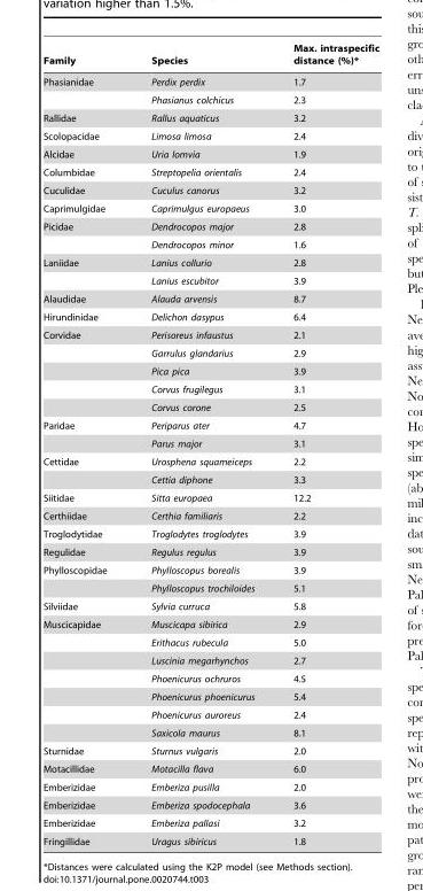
<table><thead><tr><td>Family</td><td>Species</td><td>Max. intraspecific distance (%)*</td></tr></thead><tbody><tr><td rowspan="2">Phasianidae</td><td>Perdix perdix</td><td>1.7</td></tr><tr><td>Phasianus colchicus</td><td>2.3</td></tr><tr><td>Rallidae</td><td>Rallus aquaticus</td><td>3.2</td></tr><tr><td>Scolopacidae</td><td>Limosa limosa</td><td>2.4</td></tr><tr><td>Alcidae</td><td>Uria lomvia</td><td>1.9</td></tr><tr><td>Columbidae</td><td>Streptopelia orientalis</td><td>2.4</td></tr><tr><td>Cuculidae</td><td>Cuculus canorus</td><td>3.2</td></tr><tr><td>Caprimulgidae</td><td>Caprimulgus europaeus</td><td>3.0</td></tr><tr><td rowspan="2">Picidae</td><td>Dendrocopos major</td><td>2.8</td></tr><tr><td>Dendrocopos minor</td><td>1.6</td></tr><tr><td rowspan="2">Laniidae</td><td>Lanius collurio</td><td>2.8</td></tr><tr><td>Lanius escubitor</td><td>3.9</td></tr><tr><td>Alaudidae</td><td>Alauda arvensis</td><td>8.7</td></tr><tr><td>Hirundinidae</td><td>Delichon dasypus</td><td>6.4</td></tr><tr><td rowspan="5">Corvidae</td><td>Perisoreus infaustus</td><td>2.1</td></tr><tr><td>Garrulus glandarius</td><td>2.9</td></tr><tr><td>Pica pica</td><td>3.9</td></tr><tr><td>Corvus frugilegus</td><td>3.1</td></tr><tr><td>Corvus corone</td><td>2.5</td></tr><tr><td rowspan="2">Paridae</td><td>Periparus ater</td><td>4.7</td></tr><tr><td>Parus major</td><td>3.1</td></tr><tr><td rowspan="2">Cettidae</td><td>Urosphena squameiceps</td><td>2.2</td></tr><tr><td>Cettia diphone</td><td>3.3</td></tr><tr><td>Siitidae</td><td>Sitta europaea</td><td>12.2</td></tr><tr><td>Certhiidae</td><td>Certhia familiaris</td><td>2.2</td></tr><tr><td>Troglodytidae</td><td>Troglodytes troglodytes</td><td>3.9</td></tr><tr><td>Regulidae</td><td>Regulus regulus</td><td>3.9</td></tr><tr><td rowspan="2">Phylloscopidae</td><td>Phylloscopus borealis</td><td>3.9</td></tr><tr><td>Phylloscopus trochiloides</td><td>5.1</td></tr><tr><td>Silviidae</td><td>Sylvia curruca</td><td>5.8</td></tr><tr><td rowspan="7">Muscicapidae</td><td>Muscicapa sibirica</td><td>2.9</td></tr><tr><td>Erithacus rubecula</td><td>5.0</td></tr><tr><td>Luscinia megarhynchos</td><td>2.7</td></tr><tr><td>Phoenicurus ochruros</td><td>4.5</td></tr><tr><td>Phoenicurus phoenicurus</td><td>5.4</td></tr><tr><td>Phoenicurus auroreus</td><td>2.4</td></tr><tr><td>Saxicola maurus</td><td>8.1</td></tr><tr><td>Sturnidae</td><td>Sturnus vulgaris</td><td>2.0</td></tr><tr><td>Motacillidae</td><td>Motacilla flava</td><td>6.0</td></tr><tr><td>Emberizidae</td><td>Emberiza pusilla</td><td>2.0</td></tr><tr><td>Emberizidae</td><td>Emberiza spodocephala</td><td>3.6</td></tr><tr><td>Emberizidae</td><td>Emberiza pallasi</td><td>3.2</td></tr><tr><td>Fringillidae</td><td>Uragus sibiricus</td><td>1.8</td></tr></tbody></table>